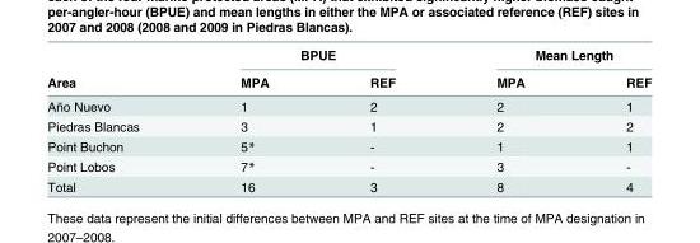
<table><thead><tr><td rowspan="2">Area</td><td colspan="2">BPUE</td><td colspan="2">Mean Length</td></tr><tr><td>MPA</td><td>REF</td><td>MPA</td><td>REF</td></tr></thead><tbody><tr><td>Año Nuevo</td><td>1</td><td>2</td><td>2</td><td>1</td></tr><tr><td>Piedras Blancas</td><td>3</td><td>1</td><td>2</td><td>2</td></tr><tr><td>Point Buchon</td><td>5*</td><td>-</td><td>1</td><td>1</td></tr><tr><td>Point Lobos</td><td>7*</td><td>-</td><td>3</td><td>-</td></tr><tr><td>Total</td><td>16</td><td>3</td><td>8</td><td>4</td></tr></tbody></table>